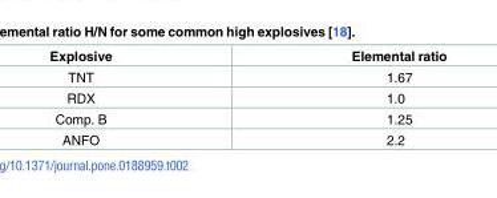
<table><thead><tr><td>Explosive</td><td>Elemental ratio</td></tr></thead><tbody><tr><td>TNT</td><td>1.67</td></tr><tr><td>RDX</td><td>1.0</td></tr><tr><td>Comp. B</td><td>1.25</td></tr><tr><td>ANFO</td><td>2.2</td></tr></tbody></table>